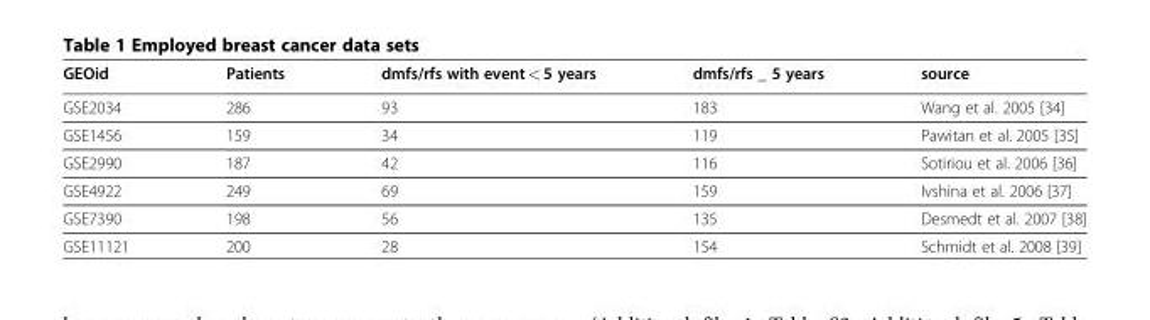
<table><thead><tr><td>GEOid</td><td>Patients</td><td>dmfs/rfs with event &lt; 5 years</td><td>dmfs/rfs _ 5 years</td><td>source</td></tr></thead><tbody><tr><td>GSE2034</td><td>286</td><td>93</td><td>183</td><td>Wang et al. 2005 [34]</td></tr><tr><td>GSE1456</td><td>159</td><td>34</td><td>119</td><td>Pawitan et al. 2005 [35]</td></tr><tr><td>GSE2990</td><td>187</td><td>42</td><td>116</td><td>Sotiriou et al. 2006 [36]</td></tr><tr><td>GSE4922</td><td>249</td><td>69</td><td>159</td><td>Ivshina et al. 2006 [37]</td></tr><tr><td>GSE7390</td><td>198</td><td>56</td><td>135</td><td>Desmedt et al. 2007 [38]</td></tr><tr><td>GSE11121</td><td>200</td><td>28</td><td>154</td><td>Schmidt et al. 2008 [39]</td></tr></tbody></table>